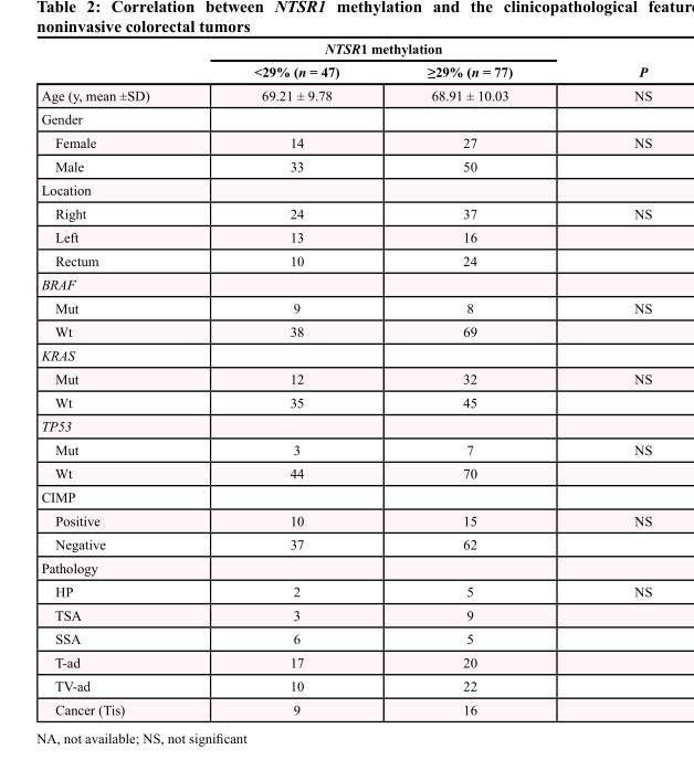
<table><thead><tr><td rowspan="2"></td><td colspan="2">NTSR1 methylation</td><td rowspan="2">P</td></tr><tr><td>&lt;29% (n = 47)</td><td>≥29% (n = 77)</td></tr></thead><tbody><tr><td>Age (y, mean ±SD)</td><td>69.21 ± 9.78</td><td>68.91 ± 10.03</td><td>NS</td></tr><tr><td colspan="4">Gender</td></tr><tr><td>Female</td><td>14</td><td>27</td><td>NS</td></tr><tr><td>Male</td><td>33</td><td>50</td><td></td></tr><tr><td colspan="4">Location</td></tr><tr><td>Right</td><td>24</td><td>37</td><td>NS</td></tr><tr><td>Left</td><td>13</td><td>16</td><td></td></tr><tr><td>Rectum</td><td>10</td><td>24</td><td></td></tr><tr><td colspan="4">BRAF</td></tr><tr><td>Mut</td><td>9</td><td>8</td><td>NS</td></tr><tr><td>Wt</td><td>38</td><td>69</td><td></td></tr><tr><td colspan="4">KRAS</td></tr><tr><td>Mut</td><td>12</td><td>32</td><td>NS</td></tr><tr><td>Wt</td><td>35</td><td>45</td><td></td></tr><tr><td colspan="4">TP53</td></tr><tr><td>Mut</td><td>3</td><td>7</td><td>NS</td></tr><tr><td>Wt</td><td>44</td><td>70</td><td></td></tr><tr><td colspan="4">CIMP</td></tr><tr><td>Positive</td><td>10</td><td>15</td><td>NS</td></tr><tr><td>Negative</td><td>37</td><td>62</td><td></td></tr><tr><td colspan="4">Pathology</td></tr><tr><td>HP</td><td>2</td><td>5</td><td>NS</td></tr><tr><td>TSA</td><td>3</td><td>9</td><td></td></tr><tr><td>SSA</td><td>6</td><td>5</td><td></td></tr><tr><td>T-ad</td><td>17</td><td>20</td><td></td></tr><tr><td>TV-ad</td><td>10</td><td>22</td><td></td></tr><tr><td>Cancer (Tis)</td><td>9</td><td>16</td><td></td></tr></tbody></table>